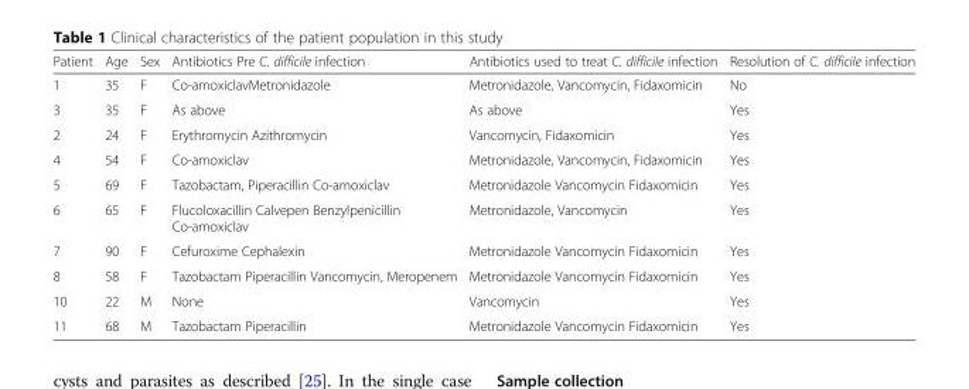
<table><thead><tr><td>Patient</td><td>Age</td><td>Sex</td><td>Antibiotics Pre C. difficile infection</td><td>Antibiotics used to treat C. difficile infection</td><td>Resolution of C. difficile infection</td></tr></thead><tbody><tr><td>1</td><td>35</td><td>F</td><td>Co-amoxiclavMetronidazole</td><td>Metronidazole, Vancomycin, Fidaxomicin</td><td>No</td></tr><tr><td>3</td><td>35</td><td>F</td><td>As above</td><td>As above</td><td>Yes</td></tr><tr><td>2</td><td>24</td><td>F</td><td>Erythromycin Azithromycin</td><td>Vancomycin, Fidaxomicin</td><td>Yes</td></tr><tr><td>4</td><td>54</td><td>F</td><td>Co-amoxiclav</td><td>Metronidazole, Vancomycin, Fidaxomicin</td><td>Yes</td></tr><tr><td>5</td><td>69</td><td>F</td><td>Tazobactam, Piperacillin Co-amoxiclav</td><td>Metronidazole Vancomycin Fidaxomicin</td><td>Yes</td></tr><tr><td>6</td><td>65</td><td>F</td><td>Flucoloxacillin Calvepen Benzylpenicillin Co-amoxiclav</td><td>Metronidazole, Vancomycin</td><td>Yes</td></tr><tr><td>7</td><td>90</td><td>F</td><td>Cefuroxime Cephalexin</td><td>Metronidazole Vancomycin Fidaxomicin</td><td>Yes</td></tr><tr><td>8</td><td>58</td><td>F</td><td>Tazobactam Piperacillin Vancomycin, Meropenem</td><td>Metronidazole Vancomycin Fidaxomicin</td><td>Yes</td></tr><tr><td>10</td><td>22</td><td>M</td><td>None</td><td>Vancomycin</td><td>Yes</td></tr><tr><td>11</td><td>68</td><td>M</td><td>Tazobactam Piperacillin</td><td>Metronidazole Vancomycin Fidaxomicin</td><td>Yes</td></tr></tbody></table>